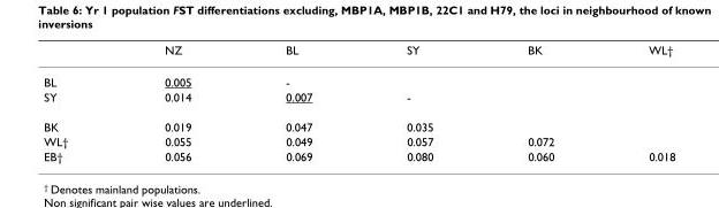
<table><thead><tr><td></td><td>NZ</td><td>BL</td><td>SY</td><td>BK</td><td>WL†</td></tr></thead><tbody><tr><td>BL</td><td>0.005</td><td>-</td><td></td><td></td><td></td></tr><tr><td>SY</td><td>0.014</td><td>0.007</td><td>-</td><td></td><td></td></tr><tr><td>BK</td><td>0.019</td><td>0.047</td><td>0.035</td><td></td><td></td></tr><tr><td>WL†</td><td>0.055</td><td>0.049</td><td>0.057</td><td>0.072</td><td></td></tr><tr><td>EB†</td><td>0.056</td><td>0.069</td><td>0.080</td><td>0.060</td><td>0.018</td></tr></tbody></table>